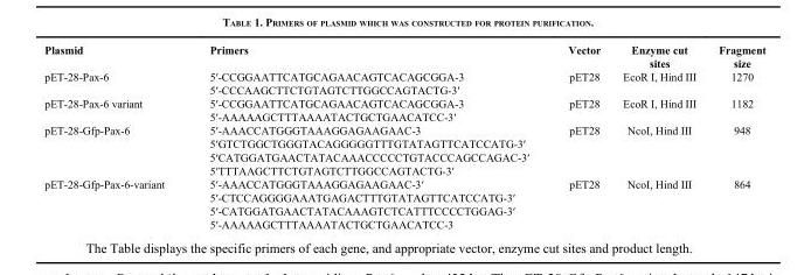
<table><thead><tr><td>Plasmid</td><td>Primers</td><td>Vector</td><td>Enzyme cut sites</td><td>Fragment size</td></tr></thead><tbody><tr><td rowspan="2">pET-28-Pax-6</td><td>5′-CCGGAATTCATGCAGAACAGTCACAGCGGA-3</td><td>pET28</td><td>EcoR I, Hind III</td><td>1270</td></tr><tr><td>5′-CCCAAGCTTCTGTAGTCTTGGCCAGTACTG-3′</td><td></td><td></td><td></td></tr><tr><td rowspan="2">pET-28-Pax-6 variant</td><td>5′-CCGGAATTCATGCAGAACAGTCACAGCGGA-3</td><td>pET28</td><td>EcoR I, Hind III</td><td>1182</td></tr><tr><td>5′-AAAAAGCTTTAAAATACTGCTGAACATCC-3′</td><td></td><td></td><td></td></tr><tr><td rowspan="4">pET-28-Gfp-Pax-6</td><td>5′-AAACCATGGGTAAAGGAGAAGAAC-3</td><td>pET28</td><td>NcoI, Hind III</td><td>948</td></tr><tr><td>5′GTCTGGCTGGGTACAGGGGGTTTGTATAGTTCATCCATG-3′</td><td></td><td></td><td></td></tr><tr><td>5′CATGGATGAACTATACAAACCCCCTGTACCCAGCCAGAC-3′</td><td></td><td></td><td></td></tr><tr><td>5′TTTAAGCTTCTGTAGTCTTGGCCAGTACTG-3′</td><td></td><td></td><td></td></tr><tr><td rowspan="4">pET-28-Gfp-Pax-6-variant</td><td>5′-AAACCATGGGTAAAGGAGAAGAAC-3′</td><td>pET28</td><td>NcoI, Hind III</td><td>864</td></tr><tr><td>5′-CTCCAGGGGAAATGAGACTTTGTATAGTTCATCCATG-3′</td><td></td><td></td><td></td></tr><tr><td>5′-CATGGATGAACTATACAAAGTCTCATTTCCCCTGGAG-3′</td><td></td><td></td><td></td></tr><tr><td>5′-AAAAAGCTTTAAAATACTGCTGAACATCC-3</td><td></td><td></td><td></td></tr></tbody></table>